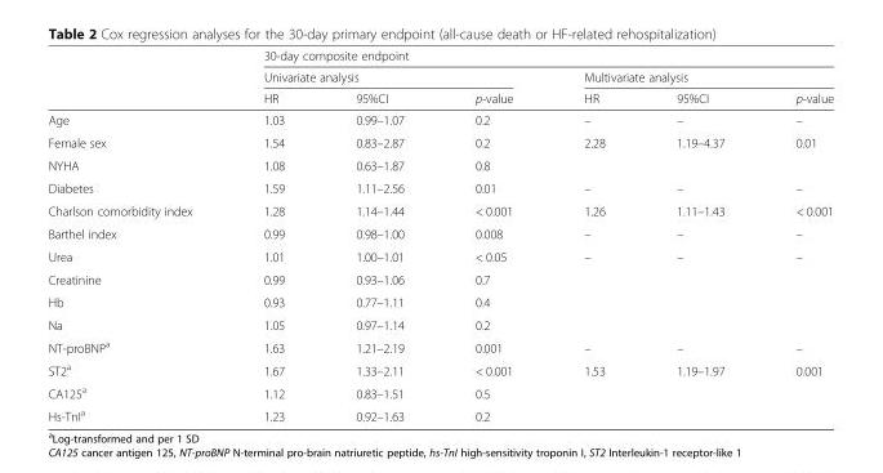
<table><thead><tr><td rowspan="3"></td><td colspan="6">30-day composite endpoint</td></tr><tr><td colspan="3">Univariate analysis</td><td colspan="3">Multivariate analysis</td></tr><tr><td>HR</td><td>95%CI</td><td>p-value</td><td>HR</td><td>95%CI</td><td>p-value</td></tr></thead><tbody><tr><td>Age</td><td>1.03</td><td>0.99–1.07</td><td>0.2</td><td>–</td><td>–</td><td>–</td></tr><tr><td>Female sex</td><td>1.54</td><td>0.83–2.87</td><td>0.2</td><td>2.28</td><td>1.19–4.37</td><td>0.01</td></tr><tr><td>NYHA</td><td>1.08</td><td>0.63–1.87</td><td>0.8</td><td></td><td></td><td></td></tr><tr><td>Diabetes</td><td>1.59</td><td>1.11–2.56</td><td>0.01</td><td>–</td><td>–</td><td>–</td></tr><tr><td>Charlson comorbidity index</td><td>1.28</td><td>1.14–1.44</td><td>&lt; 0.001</td><td>1.26</td><td>1.11–1.43</td><td>&lt; 0.001</td></tr><tr><td>Barthel index</td><td>0.99</td><td>0.98–1.00</td><td>0.008</td><td>–</td><td>–</td><td>–</td></tr><tr><td>Urea</td><td>1.01</td><td>1.00–1.01</td><td>&lt; 0.05</td><td>–</td><td>–</td><td>–</td></tr><tr><td>Creatinine</td><td>0.99</td><td>0.93–1.06</td><td>0.7</td><td></td><td></td><td></td></tr><tr><td>Hb</td><td>0.93</td><td>0.77–1.11</td><td>0.4</td><td></td><td></td><td></td></tr><tr><td>Na</td><td>1.05</td><td>0.97–1.14</td><td>0.2</td><td></td><td></td><td></td></tr><tr><td>NT-proBNP<sup>a</sup></td><td>1.63</td><td>1.21–2.19</td><td>0.001</td><td>–</td><td>–</td><td>–</td></tr><tr><td>ST2<sup>a</sup></td><td>1.67</td><td>1.33–2.11</td><td>&lt; 0.001</td><td>1.53</td><td>1.19–1.97</td><td>0.001</td></tr><tr><td>CA125<sup>a</sup></td><td>1.12</td><td>0.83–1.51</td><td>0.5</td><td></td><td></td><td></td></tr><tr><td>Hs-TnI<sup>a</sup></td><td>1.23</td><td>0.92–1.63</td><td>0.2</td><td></td><td></td><td></td></tr></tbody></table>